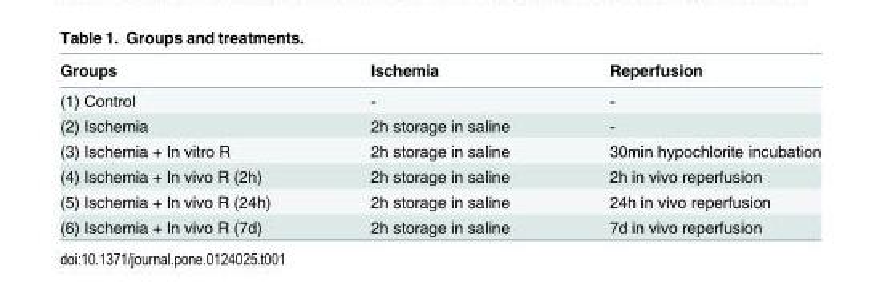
<table><thead><tr><td>Groups</td><td>Ischemia</td><td>Reperfusion</td></tr></thead><tbody><tr><td>(1) Control</td><td>-</td><td>-</td></tr><tr><td>(2) Ischemia</td><td>2h storage in saline</td><td>-</td></tr><tr><td>(3) Ischemia + In vitro R</td><td>2h storage in saline</td><td>30min hypochlorite incubation</td></tr><tr><td>(4) Ischemia + In vivo R (2h)</td><td>2h storage in saline</td><td>2h in vivo reperfusion</td></tr><tr><td>(5) Ischemia + In vivo R (24h)</td><td>2h storage in saline</td><td>24h in vivo reperfusion</td></tr><tr><td>(6) Ischemia + In vivo R (7d)</td><td>2h storage in saline</td><td>7d in vivo reperfusion</td></tr></tbody></table>